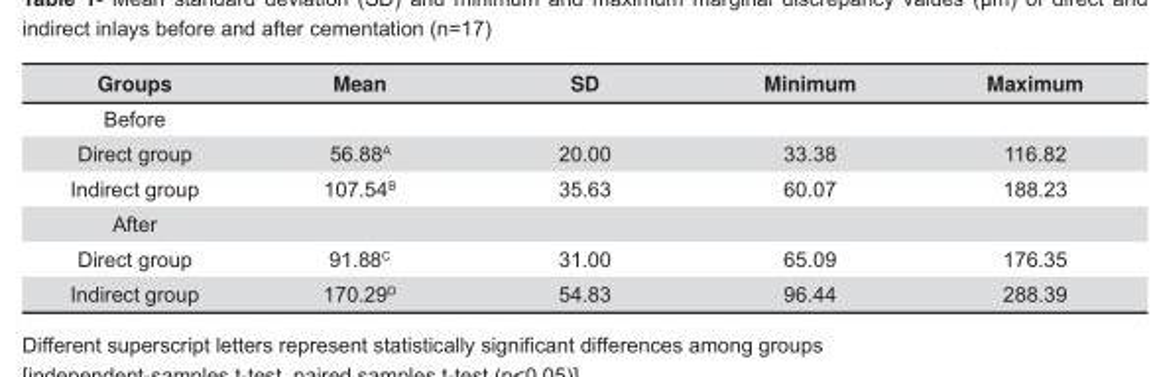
<table><thead><tr><td>Groups</td><td>Mean</td><td>SD</td><td>Minimum</td><td>Maximum</td></tr></thead><tbody><tr><td colspan="5">Before</td></tr><tr><td>Direct group</td><td>56.88<sup>A</sup></td><td>20.00</td><td>33.38</td><td>116.82</td></tr><tr><td>Indirect group</td><td>107.54<sup>B</sup></td><td>35.63</td><td>60.07</td><td>188.23</td></tr><tr><td colspan="5">After</td></tr><tr><td>Direct group</td><td>91.88<sup>C</sup></td><td>31.00</td><td>65.09</td><td>176.35</td></tr><tr><td>Indirect group</td><td>170.29<sup>D</sup></td><td>54.83</td><td>96.44</td><td>288.39</td></tr></tbody></table>